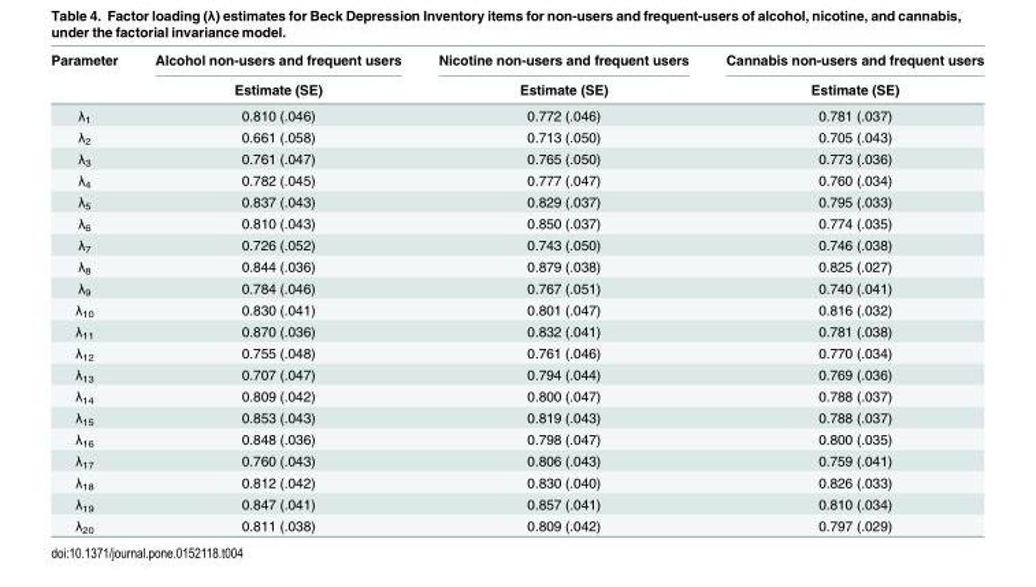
<table><thead><tr><td rowspan="2">Parameter</td><td rowspan="2">Alcohol non-users and frequent users Estimate (SE)</td><td rowspan="2">Nicotine non-users and frequent users Estimate (SE)</td><td rowspan="2">Cannabis non-users and frequent users Estimate (SE)</td></tr><tr></tr></thead><tbody><tr><td>λ<sub>1</sub></td><td>0.810 (.046)</td><td>0.772 (.046)</td><td>0.781 (.037)</td></tr><tr><td>λ<sub>2</sub></td><td>0.661 (.058)</td><td>0.713 (.050)</td><td>0.705 (.043)</td></tr><tr><td>λ<sub>3</sub></td><td>0.761 (.047)</td><td>0.765 (.050)</td><td>0.773 (.036)</td></tr><tr><td>λ<sub>4</sub></td><td>0.782 (.045)</td><td>0.777 (.047)</td><td>0.760 (.034)</td></tr><tr><td>λ<sub>5</sub></td><td>0.837 (.043)</td><td>0.829 (.037)</td><td>0.795 (.033)</td></tr><tr><td>λ<sub>6</sub></td><td>0.810 (.043)</td><td>0.850 (.037)</td><td>0.774 (.035)</td></tr><tr><td>λ<sub>7</sub></td><td>0.726 (.052)</td><td>0.743 (.050)</td><td>0.746 (.038)</td></tr><tr><td>λ<sub>8</sub></td><td>0.844 (.036)</td><td>0.879 (.038)</td><td>0.825 (.027)</td></tr><tr><td>λ<sub>9</sub></td><td>0.784 (.046)</td><td>0.767 (.051)</td><td>0.740 (.041)</td></tr><tr><td>λ<sub>10</sub></td><td>0.830 (.041)</td><td>0.801 (.047)</td><td>0.816 (.032)</td></tr><tr><td>λ<sub>11</sub></td><td>0.870 (.036)</td><td>0.832 (.041)</td><td>0.781 (.038)</td></tr><tr><td>λ<sub>12</sub></td><td>0.755 (.048)</td><td>0.761 (.046)</td><td>0.770 (.034)</td></tr><tr><td>λ<sub>13</sub></td><td>0.707 (.047)</td><td>0.794 (.044)</td><td>0.769 (.036)</td></tr><tr><td>λ<sub>14</sub></td><td>0.809 (.042)</td><td>0.800 (.047)</td><td>0.788 (.037)</td></tr><tr><td>λ<sub>15</sub></td><td>0.853 (.043)</td><td>0.819 (.043)</td><td>0.788 (.037)</td></tr><tr><td>λ<sub>16</sub></td><td>0.848 (.036)</td><td>0.798 (.047)</td><td>0.800 (.035)</td></tr><tr><td>λ<sub>17</sub></td><td>0.760 (.043)</td><td>0.806 (.043)</td><td>0.759 (.041)</td></tr><tr><td>λ<sub>18</sub></td><td>0.812 (.042)</td><td>0.830 (.040)</td><td>0.826 (.033)</td></tr><tr><td>λ<sub>19</sub></td><td>0.847 (.041)</td><td>0.857 (.041)</td><td>0.810 (.034)</td></tr><tr><td>λ<sub>20</sub></td><td>0.811 (.038)</td><td>0.809 (.042)</td><td>0.797 (.029)</td></tr></tbody></table>